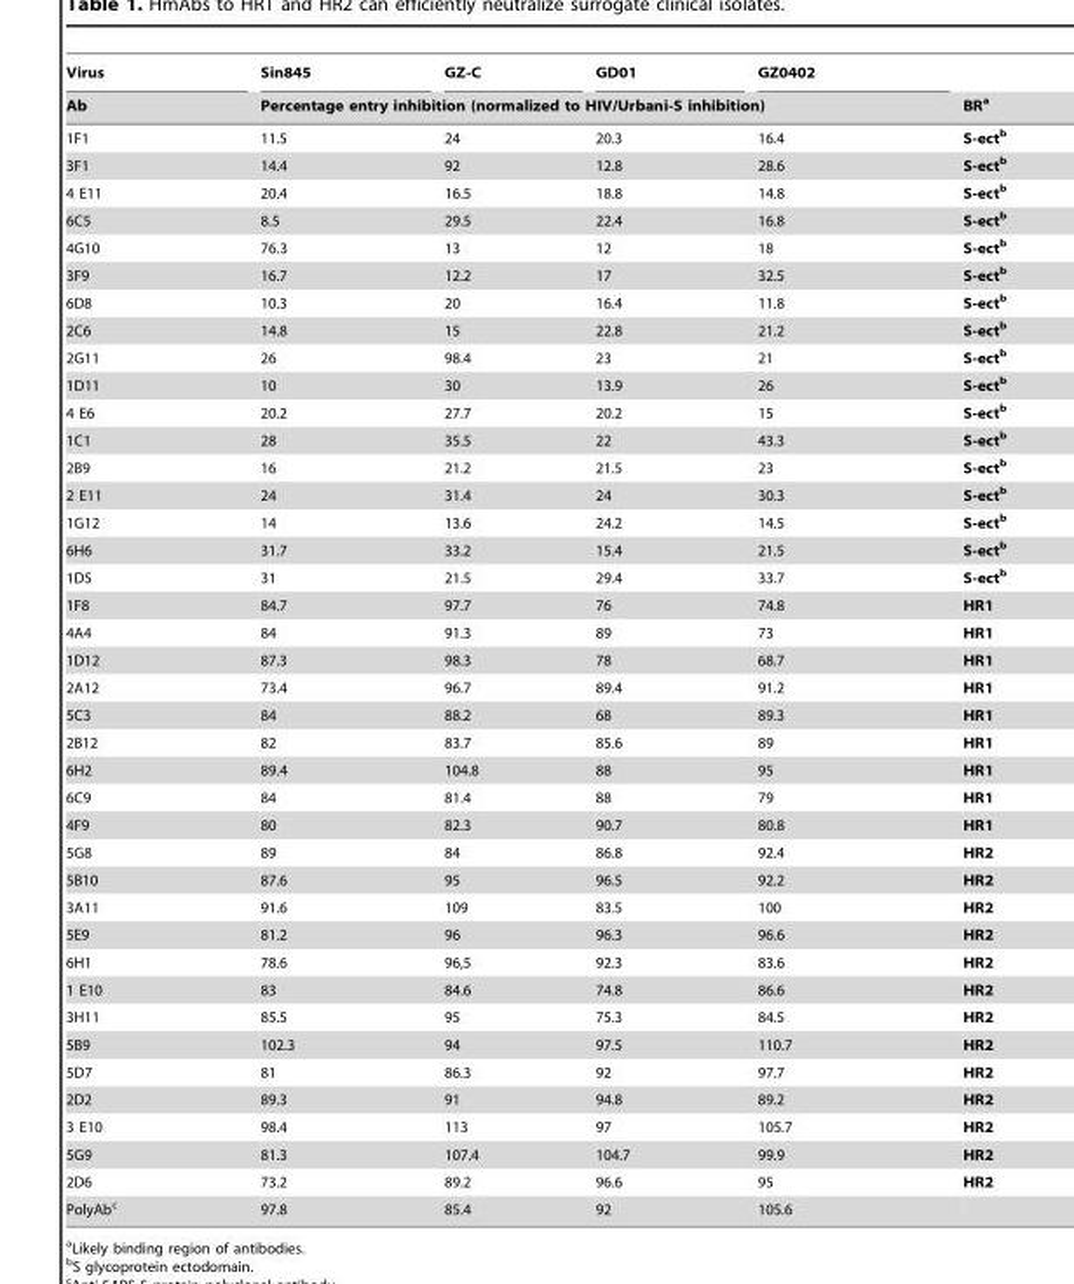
<table><thead><tr><td rowspan="2">Virus Ab</td><td>Sin845</td><td>GZ-C</td><td>GD01</td><td>GZ0402</td><td rowspan="2">BR<sup>a</sup></td></tr><tr><td colspan="4">Percentage entry inhibition (normalized to HIV/Urbani-S inhibition)</td></tr></thead><tbody><tr><td>1F1</td><td>11.5</td><td>24</td><td>20.3</td><td>16.4</td><td>S-ectb</td></tr><tr><td>3F1</td><td>14.4</td><td>92</td><td>12.8</td><td>28.6</td><td>S-ectb</td></tr><tr><td>4 E11</td><td>20.4</td><td>16.5</td><td>18.8</td><td>14.8</td><td>S-ectb</td></tr><tr><td>6C5</td><td>8.5</td><td>29.5</td><td>22.4</td><td>16.8</td><td>S-ectb</td></tr><tr><td>4G10</td><td>76.3</td><td>13</td><td>12</td><td>18</td><td>S-ectb</td></tr><tr><td>3F9</td><td>16.7</td><td>12.2</td><td>17</td><td>32.5</td><td>S-ectb</td></tr><tr><td>6D8</td><td>10.3</td><td>20</td><td>16.4</td><td>11.8</td><td>S-ectb</td></tr><tr><td>2C6</td><td>14.8</td><td>15</td><td>22.8</td><td>21.2</td><td>S-ectb</td></tr><tr><td>2G11</td><td>26</td><td>98.4</td><td>23</td><td>21</td><td>S-ectb</td></tr><tr><td>1D11</td><td>10</td><td>30</td><td>13.9</td><td>26</td><td>S-ectb</td></tr><tr><td>4 E6</td><td>20.2</td><td>27.7</td><td>20.2</td><td>15</td><td>S-ectb</td></tr><tr><td>1C1</td><td>28</td><td>35.5</td><td>22</td><td>43.3</td><td>S-ectb</td></tr><tr><td>2B9</td><td>16</td><td>21.2</td><td>21.5</td><td>23</td><td>S-ectb</td></tr><tr><td>2 E11</td><td>24</td><td>31.4</td><td>24</td><td>30.3</td><td>S-ectb</td></tr><tr><td>1G12</td><td>14</td><td>13.6</td><td>24.2</td><td>14.5</td><td>S-ectb</td></tr><tr><td>6H6</td><td>31.7</td><td>33.2</td><td>15.4</td><td>21.5</td><td>S-ectb</td></tr><tr><td>1D5</td><td>31</td><td>21.5</td><td>29.4</td><td>33.7</td><td>S-ectb</td></tr><tr><td>1F8</td><td>84.7</td><td>97.7</td><td>76</td><td>74.8</td><td>HR1</td></tr><tr><td>4A4</td><td>84</td><td>91.3</td><td>89</td><td>73</td><td>HR1</td></tr><tr><td>1D12</td><td>87.3</td><td>98.3</td><td>78</td><td>68.7</td><td>HR1</td></tr><tr><td>2A12</td><td>73.4</td><td>96.7</td><td>89.4</td><td>91.2</td><td>HR1</td></tr><tr><td>5C3</td><td>84</td><td>88.2</td><td>68</td><td>89.3</td><td>HR1</td></tr><tr><td>2B12</td><td>82</td><td>83.7</td><td>85.6</td><td>89</td><td>HR1</td></tr><tr><td>6H2</td><td>89.4</td><td>104.8</td><td>88</td><td>95</td><td>HR1</td></tr><tr><td>6C9</td><td>84</td><td>81.4</td><td>88</td><td>79</td><td>HR1</td></tr><tr><td>4F9</td><td>80</td><td>82.3</td><td>90.7</td><td>80.8</td><td>HR1</td></tr><tr><td>5G8</td><td>89</td><td>84</td><td>86.8</td><td>92.4</td><td>HR2</td></tr><tr><td>5B10</td><td>87.6</td><td>95</td><td>96.5</td><td>92.2</td><td>HR2</td></tr><tr><td>3A11</td><td>91.6</td><td>109</td><td>83.5</td><td>100</td><td>HR2</td></tr><tr><td>5E9</td><td>81.2</td><td>96</td><td>96.3</td><td>96.6</td><td>HR2</td></tr><tr><td>6H1</td><td>78.6</td><td>96,5</td><td>92.3</td><td>83.6</td><td>HR2</td></tr><tr><td>1 E10</td><td>83</td><td>84.6</td><td>74.8</td><td>86.6</td><td>HR2</td></tr><tr><td>3H11</td><td>85.5</td><td>95</td><td>75.3</td><td>84.5</td><td>HR2</td></tr><tr><td>5B9</td><td>102.3</td><td>94</td><td>97.5</td><td>110.7</td><td>HR2</td></tr><tr><td>5D7</td><td>81</td><td>86.3</td><td>92</td><td>97.7</td><td>HR2</td></tr><tr><td>2D2</td><td>89.3</td><td>91</td><td>94.8</td><td>89.2</td><td>HR2</td></tr><tr><td>3 E10</td><td>98.4</td><td>113</td><td>97</td><td>105.7</td><td>HR2</td></tr><tr><td>5G9</td><td>81.3</td><td>107.4</td><td>104.7</td><td>99.9</td><td>HR2</td></tr><tr><td>2D6</td><td>73.2</td><td>89.2</td><td>96.6</td><td>95</td><td>HR2</td></tr><tr><td>PolyAb<sup>c</sup></td><td>97.8</td><td>85.4</td><td>92</td><td>105.6</td><td></td></tr></tbody></table>